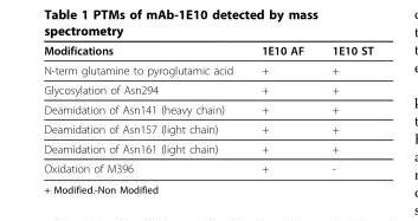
<table><thead><tr><td>Modifications</td><td>1E10 AF</td><td>1E10 ST</td></tr></thead><tbody><tr><td>N-term glutamine to pyroglutamic acid</td><td>+</td><td>+</td></tr><tr><td>Glycosylation of Asn294</td><td>+</td><td>+</td></tr><tr><td>Deamidation of Asn141 (heavy chain)</td><td>+</td><td>+</td></tr><tr><td>Deamidation of Asn157 (light chain)</td><td>+</td><td>+</td></tr><tr><td>Deamidation of Asn161 (light chain)</td><td>+</td><td>+</td></tr><tr><td>Oxidation of M396</td><td>+</td><td>-</td></tr></tbody></table>